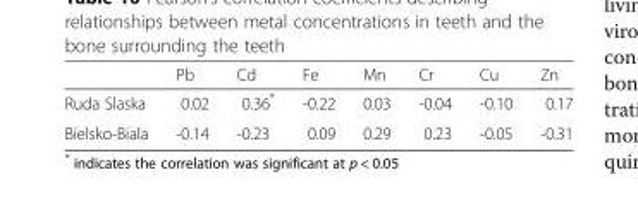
<table><thead><tr><td></td><td>Pb</td><td>Cd</td><td>Fe</td><td>Mn</td><td>Cr</td><td>Cu</td><td>Zn</td></tr></thead><tbody><tr><td>Ruda Slaska</td><td>0.02</td><td>0.36*</td><td>-0.22</td><td>0.03</td><td>-0.04</td><td>-0.10</td><td>0.17</td></tr><tr><td>Bielsko-Biala</td><td>-0.14</td><td>-0.23</td><td>0.09</td><td>0.29</td><td>0.23</td><td>-0.05</td><td>-0.31</td></tr></tbody></table>